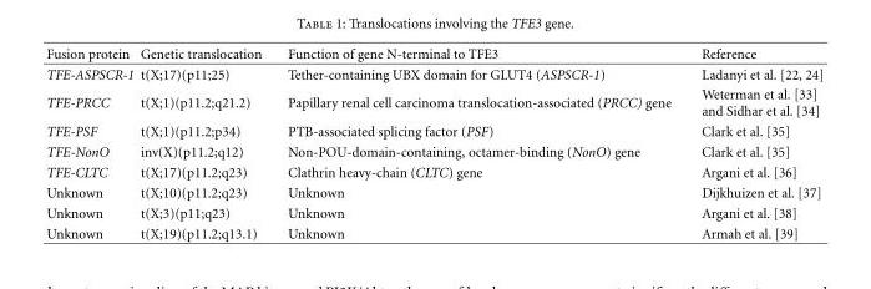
<table><thead><tr><td>Fusion protein</td><td>Genetic translocation</td><td>Function of gene N-terminal to TFE3</td><td>Reference</td></tr></thead><tbody><tr><td>TFE-ASPSCR-1</td><td>t(X;17)(p11;25)</td><td>Tether-containing UBX domain for GLUT4 (ASPSCR-1)</td><td>Ladanyi et al. [22, 24]</td></tr><tr><td>TFE-PRCC</td><td>t(X;1)(p11.2;q21.2)</td><td>Papillary renal cell carcinoma translocation-associated (PRCC) gene</td><td>Weterman et al. [33] and Sidhar et al. [34]</td></tr><tr><td>TFE-PSF</td><td>t(X;1)(p11.2;p34)</td><td>PTB-associated splicing factor (PSF)</td><td>Clark et al. [35]</td></tr><tr><td>TFE-NonO</td><td>inv(X)(p11.2;q12)</td><td>Non-POU-domain-containing, octamer-binding (NonO) gene</td><td>Clark et al. [35]</td></tr><tr><td>TFE-CLTC</td><td>t(X;17)(p11.2;q23)</td><td>Clathrin heavy-chain (CLTC) gene</td><td>Argani et al. [36]</td></tr><tr><td>Unknown</td><td>t(X;10)(p11.2;q23)</td><td>Unknown</td><td>Dijkhuizen et al. [37]</td></tr><tr><td>Unknown</td><td>t(X;3)(p11;q23)</td><td>Unknown</td><td>Argani et al. [38]</td></tr><tr><td>Unknown</td><td>t(X;19)(p11.2;q13.1)</td><td>Unknown</td><td>Armah et al. [39]</td></tr></tbody></table>